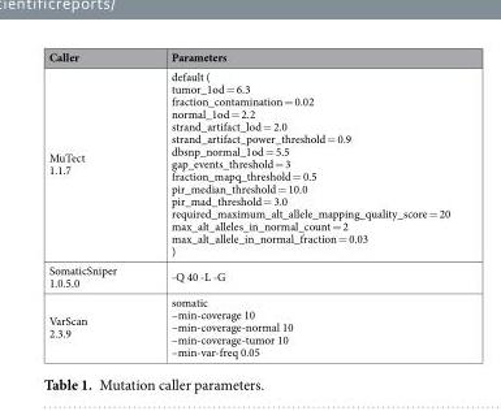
<table><thead><tr><td>Caller</td><td>Parameters</td></tr></thead><tbody><tr><td>MuTect 1.1.7</td><td>default ( tumor_1od = 6.3 fraction_contamination = 0.02 normal_1od = 2.2 strand_artifact_lod = 2.0 strand_artifact_power_threshold = 0.9 dbsnp_normal_1od = 5.5 gap_events_threshold = 3 fraction_mapq_threshold = 0.5 pir_median_threshold = 10.0 pir_mad_threshold = 3.0 required_maximum_alt_allele_mapping_quality_score = 20 max_alt_alleles_in_normal_count = 2 max_alt_allele_in_normal_fraction = 0.03 )</td></tr><tr><td>SomaticSniper 1.0.5.0</td><td>-Q 40 -L -G</td></tr><tr><td>VarScan 2.3.9</td><td>somatic –min-coverage 10 –min-coverage-normal 10 –min-coverage-tumor 10 –min-var-freq 0.05</td></tr></tbody></table>